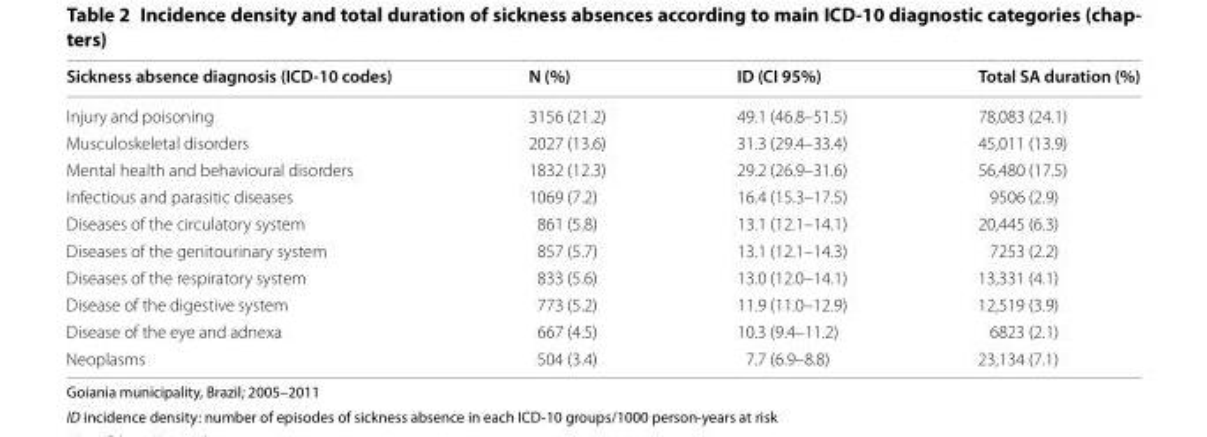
<table><thead><tr><td>Sickness absence diagnosis (ICD-10 codes)</td><td>N (%)</td><td>ID (CI 95%)</td><td>Total SA duration (%)</td></tr></thead><tbody><tr><td>Injury and poisoning</td><td>3156 (21.2)</td><td>49.1 (46.8–51.5)</td><td>78,083 (24.1)</td></tr><tr><td>Musculoskeletal disorders</td><td>2027 (13.6)</td><td>31.3 (29.4–33.4)</td><td>45,011 (13.9)</td></tr><tr><td>Mental health and behavioural disorders</td><td>1832 (12.3)</td><td>29.2 (26.9–31.6)</td><td>56,480 (17.5)</td></tr><tr><td>Infectious and parasitic diseases</td><td>1069 (7.2)</td><td>16.4 (15.3–17.5)</td><td>9506 (2.9)</td></tr><tr><td>Diseases of the circulatory system</td><td>861 (5.8)</td><td>13.1 (12.1–14.1)</td><td>20,445 (6.3)</td></tr><tr><td>Diseases of the genitourinary system</td><td>857 (5.7)</td><td>13.1 (12.1–14.3)</td><td>7253 (2.2)</td></tr><tr><td>Diseases of the respiratory system</td><td>833 (5.6)</td><td>13.0 (12.0–14.1)</td><td>13,331 (4.1)</td></tr><tr><td>Disease of the digestive system</td><td>773 (5.2)</td><td>11.9 (11.0–12.9)</td><td>12,519 (3.9)</td></tr><tr><td>Disease of the eye and adnexa</td><td>667 (4.5)</td><td>10.3 (9.4–11.2)</td><td>6823 (2.1)</td></tr><tr><td>Neoplasms</td><td>504 (3.4)</td><td>7.7 (6.9–8.8)</td><td>23,134 (7.1)</td></tr></tbody></table>